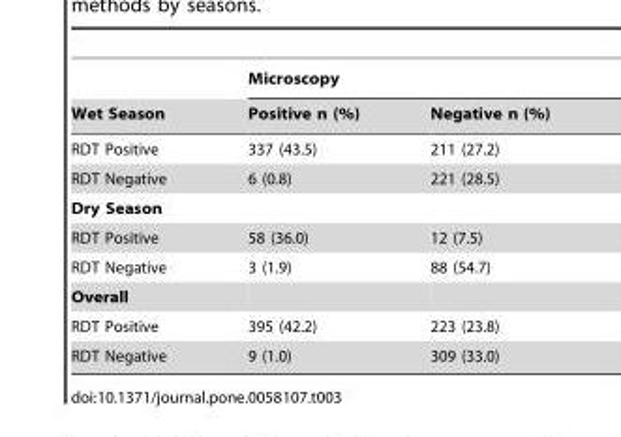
<table><thead><tr><td rowspan="2">Wet Season</td><td colspan="2">Microscopy</td></tr><tr><td>Positive n (%)</td><td>Negative n (%)</td></tr></thead><tbody><tr><td>RDT Positive</td><td>337 (43.5)</td><td>211 (27.2)</td></tr><tr><td>RDT Negative</td><td>6 (0.8)</td><td>221 (28.5)</td></tr><tr><td colspan="3">Dry Season</td></tr><tr><td>RDT Positive</td><td>58 (36.0)</td><td>12 (7.5)</td></tr><tr><td>RDT Negative</td><td>3 (1.9)</td><td>88 (54.7)</td></tr><tr><td colspan="3">Overall</td></tr><tr><td>RDT Positive</td><td>395 (42.2)</td><td>223 (23.8)</td></tr><tr><td>RDT Negative</td><td>9 (1.0)</td><td>309 (33.0)</td></tr></tbody></table>